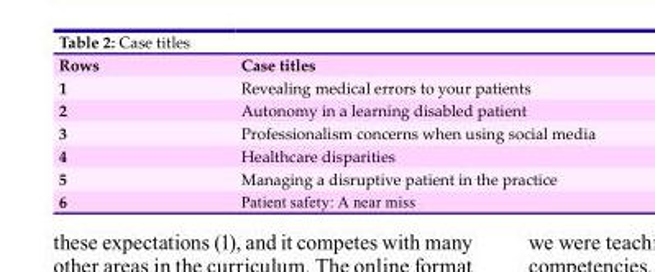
<table><thead><tr><td>Rows</td><td>Case titles</td></tr></thead><tbody><tr><td>1</td><td>Revealing medical errors to your patients</td></tr><tr><td>2</td><td>Autonomy in a learning disabled patient</td></tr><tr><td>3</td><td>Professionalism concerns when using social media</td></tr><tr><td>4</td><td>Healthcare disparities</td></tr><tr><td>5</td><td>Managing a disruptive patient in the practice</td></tr><tr><td>6</td><td>Patient safety: A near miss</td></tr></tbody></table>